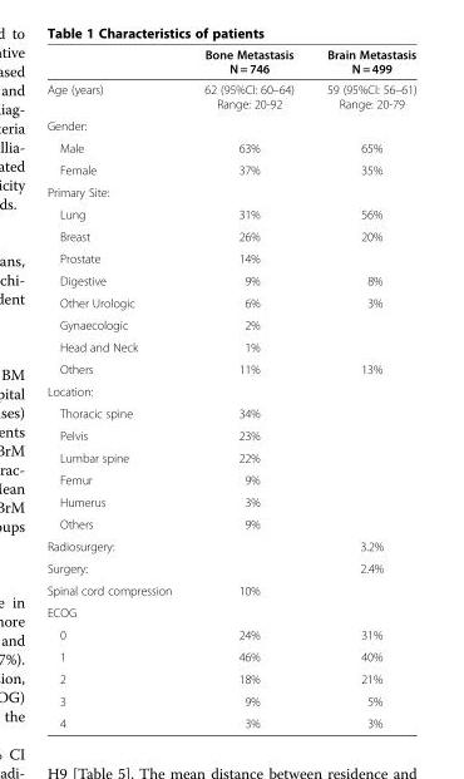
<table><thead><tr><td></td><td>Bone Metastasis N = 746</td><td>Brain Metastasis N = 499</td></tr></thead><tbody><tr><td>Age (years)</td><td>62 (95%CI: 60–64) Range: 20-92</td><td>59 (95%CI: 56–61) Range: 20-79</td></tr><tr><td colspan="3">Gender:</td></tr><tr><td>Male</td><td>63%</td><td>65%</td></tr><tr><td>Female</td><td>37%</td><td>35%</td></tr><tr><td colspan="3">Primary Site:</td></tr><tr><td>Lung</td><td>31%</td><td>56%</td></tr><tr><td>Breast</td><td>26%</td><td>20%</td></tr><tr><td>Prostate</td><td>14%</td><td></td></tr><tr><td>Digestive</td><td>9%</td><td>8%</td></tr><tr><td>Other Urologic</td><td>6%</td><td>3%</td></tr><tr><td>Gynaecologic</td><td>2%</td><td></td></tr><tr><td>Head and Neck</td><td>1%</td><td></td></tr><tr><td>Others</td><td>11%</td><td>13%</td></tr><tr><td colspan="3">Location:</td></tr><tr><td>Thoracic spine</td><td>34%</td><td></td></tr><tr><td>Pelvis</td><td>23%</td><td></td></tr><tr><td>Lumbar spine</td><td>22%</td><td></td></tr><tr><td>Femur</td><td>9%</td><td></td></tr><tr><td>Humerus</td><td>3%</td><td></td></tr><tr><td>Others</td><td>9%</td><td></td></tr><tr><td>Radiosurgery:</td><td></td><td>3.2%</td></tr><tr><td>Surgery:</td><td></td><td>2.4%</td></tr><tr><td>Spinal cord compression</td><td>10%</td><td></td></tr><tr><td colspan="3">ECOG</td></tr><tr><td>0</td><td>24%</td><td>31%</td></tr><tr><td>1</td><td>46%</td><td>40%</td></tr><tr><td>2</td><td>18%</td><td>21%</td></tr><tr><td>3</td><td>9%</td><td>5%</td></tr><tr><td>4</td><td>3%</td><td>3%</td></tr></tbody></table>